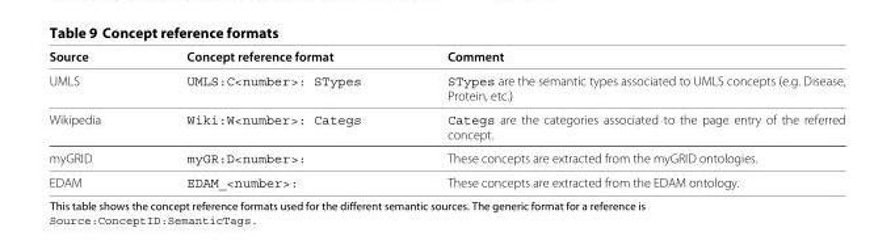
<table><thead><tr><td>Source</td><td>Concept reference format</td><td>Comment</td></tr></thead><tbody><tr><td>UMLS</td><td>UMLS:C&lt;number&gt;: STypes</td><td>STypes are the semantic types associated to UMLS concepts (e.g. Disease, Protein, etc.)</td></tr><tr><td>Wikipedia</td><td>Wiki:W&lt;number&gt;: Categs</td><td>Categs are the categories associated to the page entry of the referred concept.</td></tr><tr><td>myGRID</td><td>myGR:D&lt;number&gt;:</td><td>These concepts are extracted from the myGRID ontologies.</td></tr><tr><td>EDAM</td><td>EDAM_&lt;number&gt;:</td><td>These concepts are extracted from the EDAM ontology.</td></tr></tbody></table>